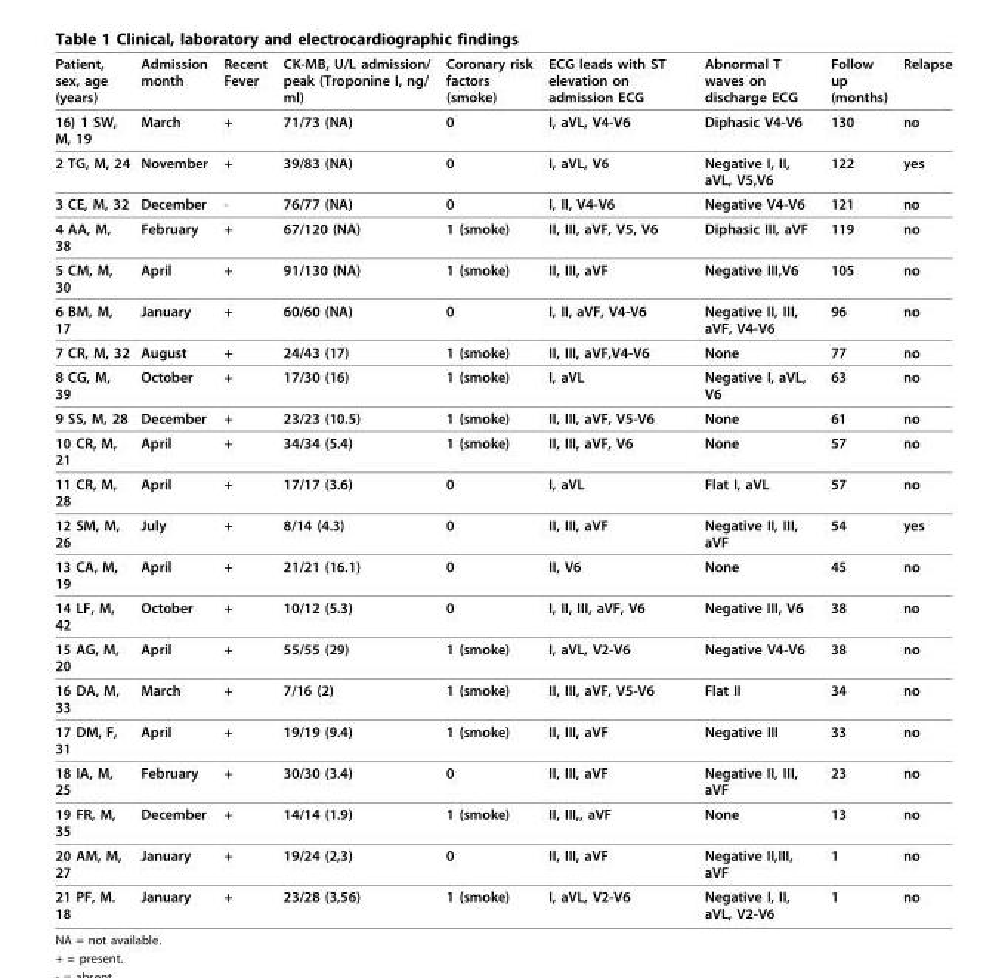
<table><thead><tr><td>Patient, sex, age (years)</td><td>Admission month</td><td>Recent Fever</td><td>CK-MB, U/L admission/ peak (Troponine I, ng/ ml)</td><td>Coronary risk factors (smoke)</td><td>ECG leads with ST elevation on admission ECG</td><td>Abnormal T waves on discharge ECG</td><td>Follow up (months)</td><td>Relapse</td></tr></thead><tbody><tr><td>16) 1 SW, M, 19</td><td>March</td><td>+</td><td>71/73 (NA)</td><td>0</td><td>I, aVL, V4-V6</td><td>Diphasic V4-V6</td><td>130</td><td>no</td></tr><tr><td>2 TG, M, 24</td><td>November</td><td>+</td><td>39/83 (NA)</td><td>0</td><td>I, aVL, V6</td><td>Negative I, II, aVL, V5,V6</td><td>122</td><td>yes</td></tr><tr><td>3 CE, M, 32</td><td>December</td><td>-</td><td>76/77 (NA)</td><td>0</td><td>I, II, V4-V6</td><td>Negative V4-V6</td><td>121</td><td>no</td></tr><tr><td>4 AA, M, 38</td><td>February</td><td>+</td><td>67/120 (NA)</td><td>1 (smoke)</td><td>II, III, aVF, V5, V6</td><td>Diphasic III, aVF</td><td>119</td><td>no</td></tr><tr><td>5 CM, M, 30</td><td>April</td><td>+</td><td>91/130 (NA)</td><td>1 (smoke)</td><td>II, III, aVF</td><td>Negative III,V6</td><td>105</td><td>no</td></tr><tr><td>6 BM, M, 17</td><td>January</td><td>+</td><td>60/60 (NA)</td><td>0</td><td>I, II, aVF, V4-V6</td><td>Negative II, III, aVF, V4-V6</td><td>96</td><td>no</td></tr><tr><td>7 CR, M, 32</td><td>August</td><td>+</td><td>24/43 (17)</td><td>1 (smoke)</td><td>II, III, aVF,V4-V6</td><td>None</td><td>77</td><td>no</td></tr><tr><td>8 CG, M, 39</td><td>October</td><td>+</td><td>17/30 (16)</td><td>1 (smoke)</td><td>I, aVL</td><td>Negative I, aVL, V6</td><td>63</td><td>no</td></tr><tr><td>9 SS, M, 28</td><td>December</td><td>+</td><td>23/23 (10.5)</td><td>1 (smoke)</td><td>II, III, aVF, V5-V6</td><td>None</td><td>61</td><td>no</td></tr><tr><td>10 CR, M, 21</td><td>April</td><td>+</td><td>34/34 (5.4)</td><td>1 (smoke)</td><td>II, III, aVF, V6</td><td>None</td><td>57</td><td>no</td></tr><tr><td>11 CR, M, 28</td><td>April</td><td>+</td><td>17/17 (3.6)</td><td>0</td><td>I, aVL</td><td>Flat I, aVL</td><td>57</td><td>no</td></tr><tr><td>12 SM, M, 26</td><td>July</td><td>+</td><td>8/14 (4.3)</td><td>0</td><td>II, III, aVF</td><td>Negative II, III, aVF</td><td>54</td><td>yes</td></tr><tr><td>13 CA, M, 19</td><td>April</td><td>+</td><td>21/21 (16.1)</td><td>0</td><td>II, V6</td><td>None</td><td>45</td><td>no</td></tr><tr><td>14 LF, M, 42</td><td>October</td><td>+</td><td>10/12 (5.3)</td><td>0</td><td>I, II, III, aVF, V6</td><td>Negative III, V6</td><td>38</td><td>no</td></tr><tr><td>15 AG, M, 20</td><td>April</td><td>+</td><td>55/55 (29)</td><td>1 (smoke)</td><td>I, aVL, V2-V6</td><td>Negative V4-V6</td><td>38</td><td>no</td></tr><tr><td>16 DA, M, 33</td><td>March</td><td>+</td><td>7/16 (2)</td><td>1 (smoke)</td><td>II, III, aVF, V5-V6</td><td>Flat II</td><td>34</td><td>no</td></tr><tr><td>17 DM, F, 31</td><td>April</td><td>+</td><td>19/19 (9.4)</td><td>1 (smoke)</td><td>II, III, aVF</td><td>Negative III</td><td>33</td><td>no</td></tr><tr><td>18 IA, M, 25</td><td>February</td><td>+</td><td>30/30 (3.4)</td><td>0</td><td>II, III, aVF</td><td>Negative II, III, aVF</td><td>23</td><td>no</td></tr><tr><td>19 FR, M, 35</td><td>December</td><td>+</td><td>14/14 (1.9)</td><td>1 (smoke)</td><td>II, III,, aVF</td><td>None</td><td>13</td><td>no</td></tr><tr><td>20 AM, M, 27</td><td>January</td><td>+</td><td>19/24 (2,3)</td><td>0</td><td>II, III, aVF</td><td>Negative II,III, aVF</td><td>1</td><td>no</td></tr><tr><td>21 PF, M. 18</td><td>January</td><td>+</td><td>23/28 (3,56)</td><td>1 (smoke)</td><td>I, aVL, V2-V6</td><td>Negative I, II, aVL, V2-V6</td><td>1</td><td>no</td></tr></tbody></table>